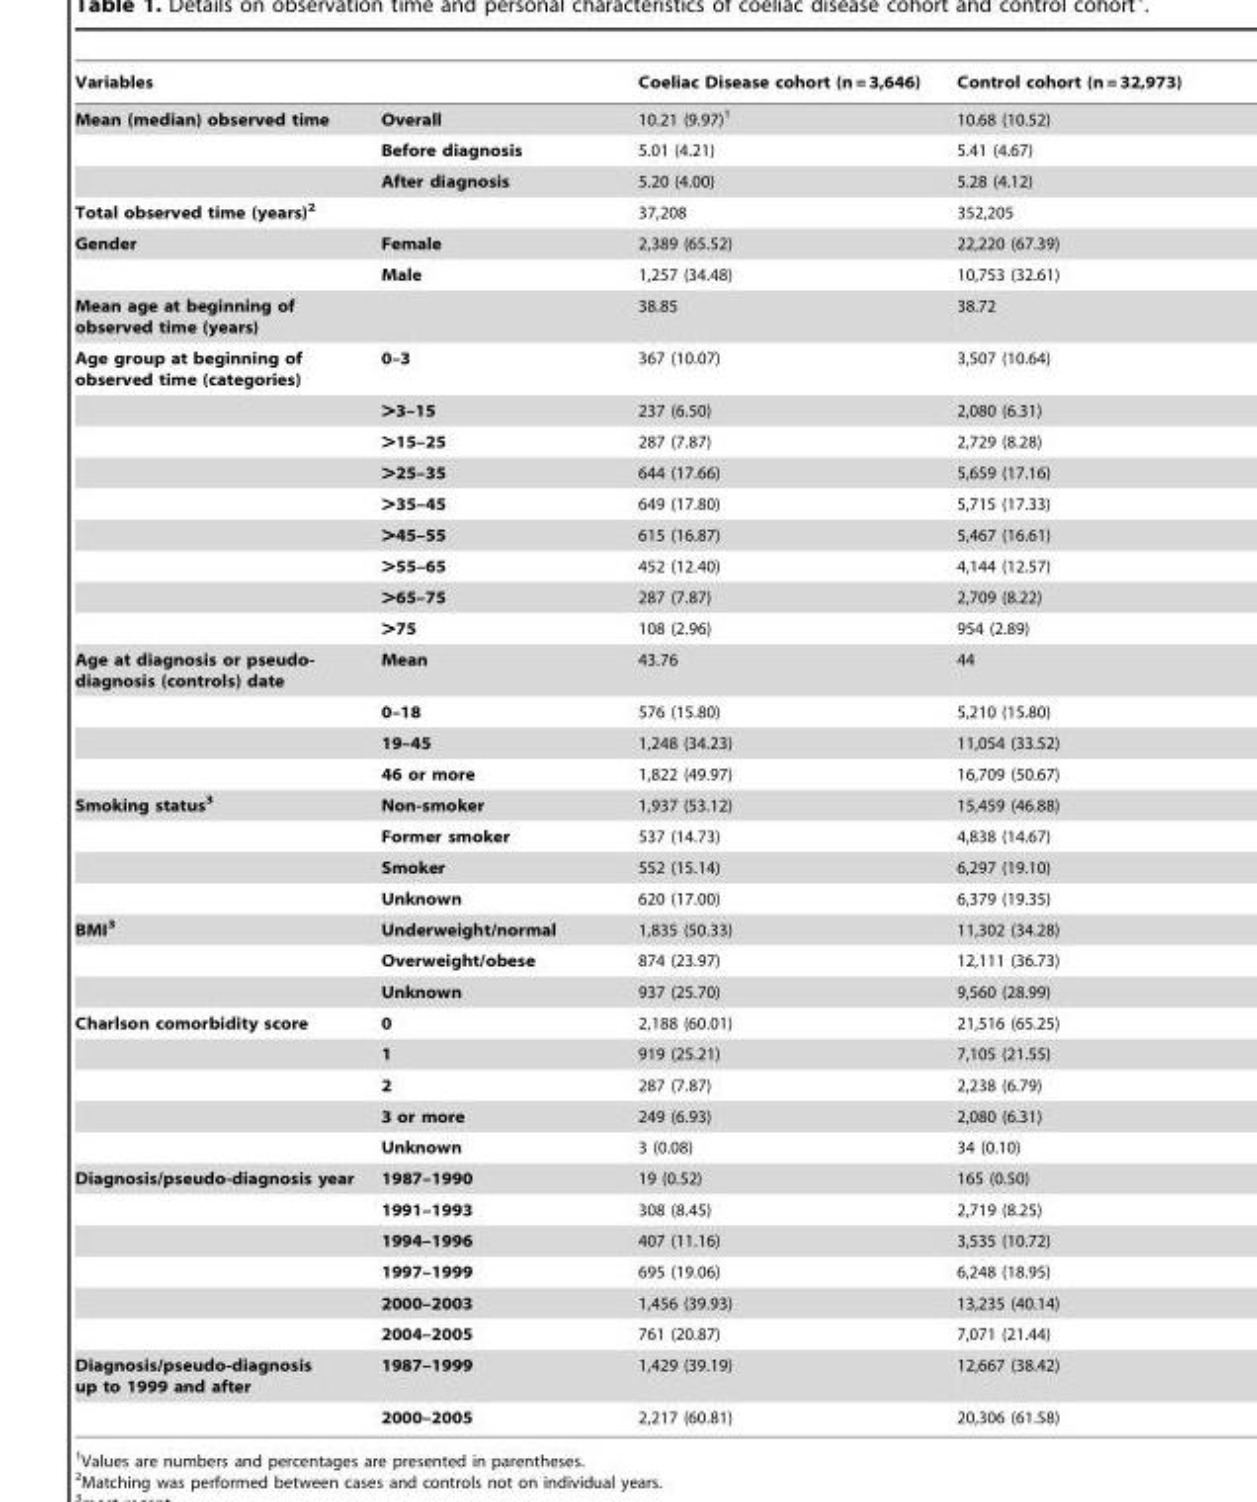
<table><thead><tr><td colspan="2">Variables</td><td rowspan="2">Coeliac Disease cohort (n = 3,646) 10.21 (9.97)<sup>1</sup></td><td rowspan="2">Control cohort (n = 32,973) 10.68 (10.52)</td></tr><tr><td>Mean (median) observed time</td><td>Overall</td></tr></thead><tbody><tr><td></td><td>Before diagnosis</td><td>5.01 (4.21)</td><td>5.41 (4.67)</td></tr><tr><td></td><td>After diagnosis</td><td>5.20 (4.00)</td><td>5.28 (4.12)</td></tr><tr><td>Total observed time (years)2</td><td></td><td>37,208</td><td>352,205</td></tr><tr><td rowspan="2">Gender</td><td>Female</td><td>2,389 (65.52)</td><td>22,220 (67.39)</td></tr><tr><td>Male</td><td>1,257 (34.48)</td><td>10,753 (32.61)</td></tr><tr><td>Mean age at beginning of observed time (years)</td><td></td><td>38.85</td><td>38.72</td></tr><tr><td rowspan="9">Age group at beginning of observed time (categories)</td><td>0–3</td><td>367 (10.07)</td><td>3,507 (10.64)</td></tr><tr><td>&gt;3–15</td><td>237 (6.50)</td><td>2,080 (6.31)</td></tr><tr><td>&gt;15–25</td><td>287 (7.87)</td><td>2,729 (8.28)</td></tr><tr><td>&gt;25–35</td><td>644 (17.66)</td><td>5,659 (17.16)</td></tr><tr><td>&gt;35–45</td><td>649 (17.80)</td><td>5,715 (17.33)</td></tr><tr><td>&gt;45–55</td><td>615 (16.87)</td><td>5,467 (16.61)</td></tr><tr><td>&gt;55–65</td><td>452 (12.40)</td><td>4,144 (12.57)</td></tr><tr><td>&gt;65–75</td><td>287 (7.87)</td><td>2,709 (8.22)</td></tr><tr><td>&gt;75</td><td>108 (2.96)</td><td>954 (2.89)</td></tr><tr><td rowspan="4">Age at diagnosis or pseudo- diagnosis (controls) date</td><td>Mean</td><td>43.76</td><td>44</td></tr><tr><td>0–18</td><td>576 (15.80)</td><td>5,210 (15.80)</td></tr><tr><td>19–45</td><td>1,248 (34.23)</td><td>11,054 (33.52)</td></tr><tr><td>46 or more</td><td>1,822 (49.97)</td><td>16,709 (50.67)</td></tr><tr><td rowspan="4">Smoking status3</td><td>Non-smoker</td><td>1,937 (53.12)</td><td>15,459 (46.88)</td></tr><tr><td>Former smoker</td><td>537 (14.73)</td><td>4,838 (14.67)</td></tr><tr><td>Smoker</td><td>552 (15.14)</td><td>6,297 (19.10)</td></tr><tr><td>Unknown</td><td>620 (17.00)</td><td>6,379 (19.35)</td></tr><tr><td rowspan="3">BMI3</td><td>Underweight/normal</td><td>1,835 (50.33)</td><td>11,302 (34.28)</td></tr><tr><td>Overweight/obese</td><td>874 (23.97)</td><td>12,111 (36.73)</td></tr><tr><td>Unknown</td><td>937 (25.70)</td><td>9,560 (28.99)</td></tr><tr><td rowspan="5">Charlson comorbidity score</td><td>0</td><td>2,188 (60.01)</td><td>21,516 (65.25)</td></tr><tr><td>1</td><td>919 (25.21)</td><td>7,105 (21.55)</td></tr><tr><td>2</td><td>287 (7.87)</td><td>2,238 (6.79)</td></tr><tr><td>3 or more</td><td>249 (6.93)</td><td>2,080 (6.31)</td></tr><tr><td>Unknown</td><td>3 (0.08)</td><td>34 (0.10)</td></tr><tr><td rowspan="6">Diagnosis/pseudo-diagnosis year</td><td>1987–1990</td><td>19 (0.52)</td><td>165 (0.50)</td></tr><tr><td>1991–1993</td><td>308 (8.45)</td><td>2,719 (8.25)</td></tr><tr><td>1994–1996</td><td>407 (11.16)</td><td>3,535 (10.72)</td></tr><tr><td>1997–1999</td><td>695 (19.06)</td><td>6,248 (18.95)</td></tr><tr><td>2000–2003</td><td>1,456 (39.93)</td><td>13,235 (40.14)</td></tr><tr><td>2004–2005</td><td>761 (20.87)</td><td>7,071 (21.44)</td></tr><tr><td rowspan="2">Diagnosis/pseudo-diagnosis up to 1999 and after</td><td>1987–1999</td><td>1,429 (39.19)</td><td>12,667 (38.42)</td></tr><tr><td>2000–2005</td><td>2,217 (60.81)</td><td>20,306 (61.58)</td></tr></tbody></table>